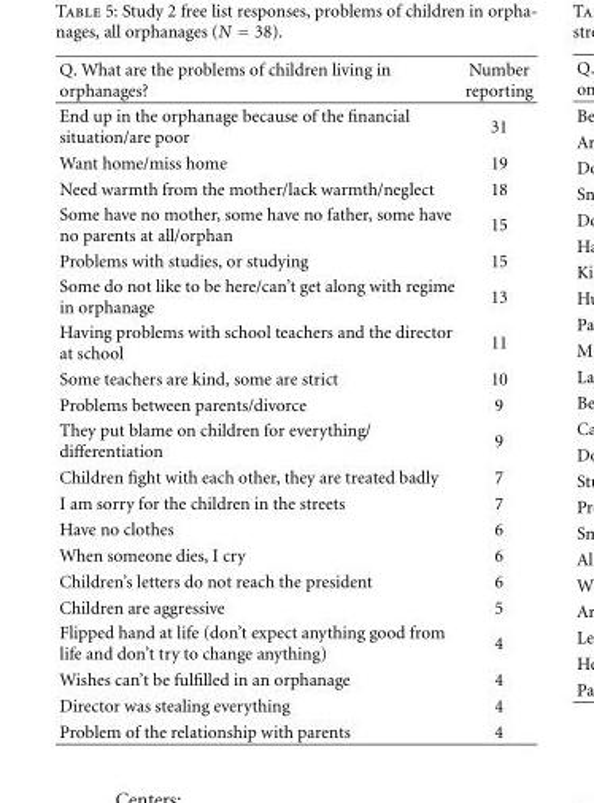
<table><thead><tr><td>Q. What are the problems of children living in orphanages?</td><td>Number reporting</td></tr></thead><tbody><tr><td>End up in the orphanage because of the financial situation/are poor</td><td>31</td></tr><tr><td>Want home/miss home</td><td>19</td></tr><tr><td>Need warmth from the mother/lack warmth/neglect</td><td>18</td></tr><tr><td>Some have no mother, some have no father, some have no parents at all/orphan</td><td>15</td></tr><tr><td>Problems with studies, or studying</td><td>15</td></tr><tr><td>Some do not like to be here/can’t get along with regime in orphanage</td><td>13</td></tr><tr><td>Having problems with school teachers and the director at school</td><td>11</td></tr><tr><td>Some teachers are kind, some are strict</td><td>10</td></tr><tr><td>Problems between parents/divorce</td><td>9</td></tr><tr><td>They put blame on children for everything/ differentiation</td><td>9</td></tr><tr><td>Children fight with each other, they are treated badly</td><td>7</td></tr><tr><td>I am sorry for the children in the streets</td><td>7</td></tr><tr><td>Have no clothes</td><td>6</td></tr><tr><td>When someone dies, I cry</td><td>6</td></tr><tr><td>Children’s letters do not reach the president</td><td>6</td></tr><tr><td>Children are aggressive</td><td>5</td></tr><tr><td>Flipped hand at life (don’t expect anything good from life and don’t try to change anything)</td><td>4</td></tr><tr><td>Wishes can’t be fulfilled in an orphanage</td><td>4</td></tr><tr><td>Director was stealing everything</td><td>4</td></tr><tr><td>Problem of the relationship with parents</td><td>4</td></tr></tbody></table>